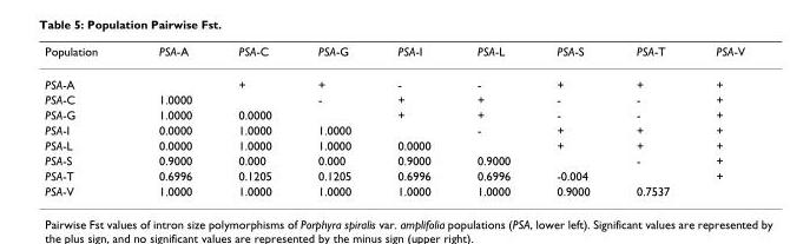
<table><thead><tr><td>Population</td><td>PSA-A</td><td>PSA-C</td><td>PSA-G</td><td>PSA-I</td><td>PSA-L</td><td>PSA-S</td><td>PSA-T</td><td>PSA-V</td></tr></thead><tbody><tr><td>PSA-A</td><td></td><td>+</td><td>+</td><td>-</td><td>-</td><td>+</td><td>+</td><td>+</td></tr><tr><td>PSA-C</td><td>1.0000</td><td></td><td>-</td><td>+</td><td>+</td><td>-</td><td>-</td><td>+</td></tr><tr><td>PSA-G</td><td>1.0000</td><td>0.0000</td><td></td><td>+</td><td>+</td><td>-</td><td>-</td><td>+</td></tr><tr><td>PSA-I</td><td>0.0000</td><td>1.0000</td><td>1.0000</td><td></td><td>-</td><td>+</td><td>+</td><td>+</td></tr><tr><td>PSA-L</td><td>0.0000</td><td>1.0000</td><td>1.0000</td><td>0.0000</td><td></td><td>+</td><td>+</td><td>+</td></tr><tr><td>PSA-S</td><td>0.9000</td><td>0.000</td><td>0.000</td><td>0.9000</td><td>0.9000</td><td></td><td>-</td><td>+</td></tr><tr><td>PSA-T</td><td>0.6996</td><td>0.1205</td><td>0.1205</td><td>0.6996</td><td>0.6996</td><td>-0.004</td><td></td><td>+</td></tr><tr><td>PSA-V</td><td>1.0000</td><td>1.0000</td><td>1.0000</td><td>1.0000</td><td>1.0000</td><td>0.9000</td><td>0.7537</td><td></td></tr></tbody></table>